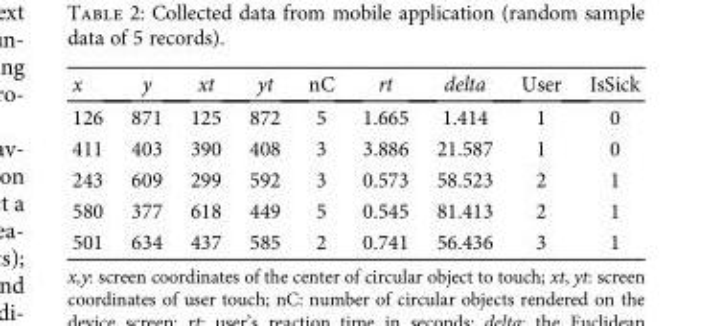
<table><thead><tr><td>x</td><td>y</td><td>xt</td><td>yt</td><td>nC</td><td>rt</td><td>delta</td><td>User</td><td>IsSick</td></tr></thead><tbody><tr><td>126</td><td>871</td><td>125</td><td>872</td><td>5</td><td>1.665</td><td>1.414</td><td>1</td><td>0</td></tr><tr><td>411</td><td>403</td><td>390</td><td>408</td><td>3</td><td>3.886</td><td>21.587</td><td>1</td><td>0</td></tr><tr><td>243</td><td>609</td><td>299</td><td>592</td><td>3</td><td>0.573</td><td>58.523</td><td>2</td><td>1</td></tr><tr><td>580</td><td>377</td><td>618</td><td>449</td><td>5</td><td>0.545</td><td>81.413</td><td>2</td><td>1</td></tr><tr><td>501</td><td>634</td><td>437</td><td>585</td><td>2</td><td>0.741</td><td>56.436</td><td>3</td><td>1</td></tr></tbody></table>